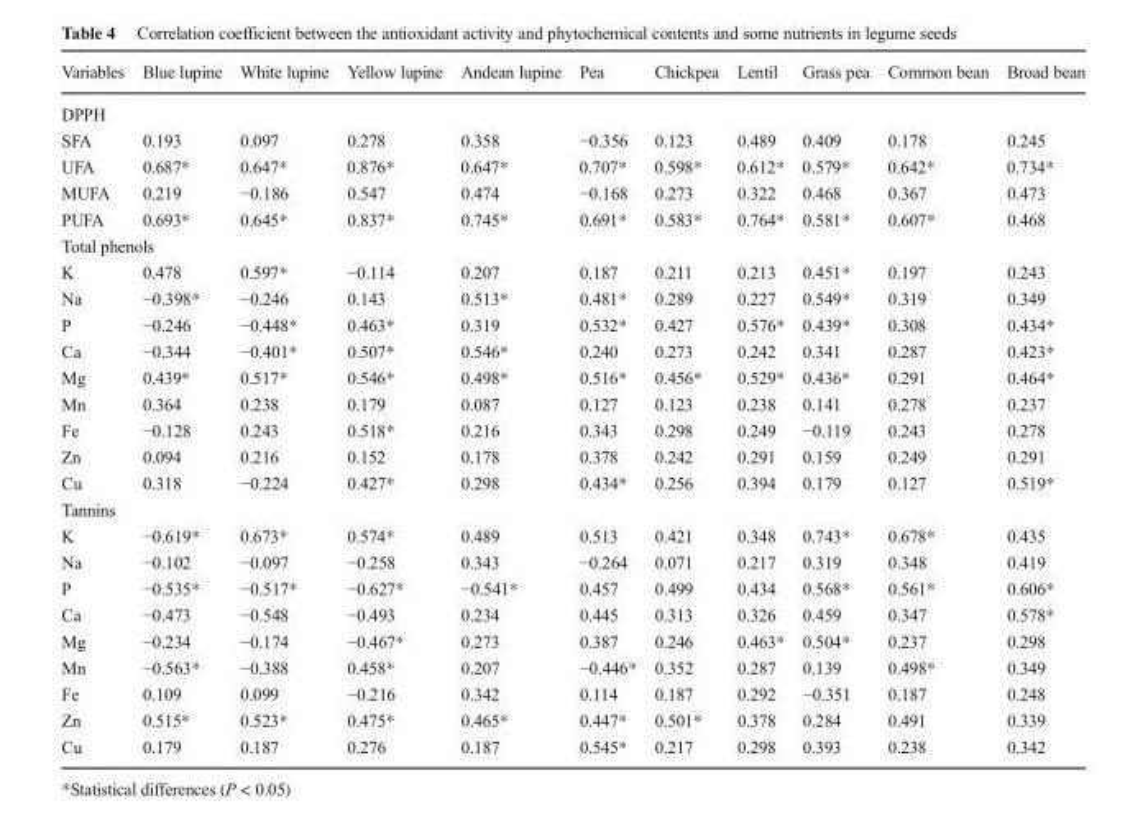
<table><thead><tr><td>Variables</td><td>Blue lupine</td><td>White lupine</td><td>Yellow lupine</td><td>Andean lupine</td><td>Pea</td><td>Chickpea</td><td>Lentil</td><td>Grass pea</td><td>Common bean</td><td>Broad bean</td></tr></thead><tbody><tr><td colspan="11">DPPH</td></tr><tr><td>SFA</td><td>0.193</td><td>0.097</td><td>0.278</td><td>0.358</td><td>−0.356</td><td>0.123</td><td>0.489</td><td>0.409</td><td>0.178</td><td>0.245</td></tr><tr><td>UFA</td><td>0.687*</td><td>0.647*</td><td>0.876*</td><td>0.647*</td><td>0.707*</td><td>0.598*</td><td>0.612*</td><td>0.579*</td><td>0.642*</td><td>0.734*</td></tr><tr><td>MUFA</td><td>0.219</td><td>−0.186</td><td>0.547</td><td>0.474</td><td>−0.168</td><td>0.273</td><td>0.322</td><td>0.468</td><td>0.367</td><td>0.473</td></tr><tr><td>PUFA</td><td>0.693*</td><td>0.645*</td><td>0.837*</td><td>0.745*</td><td>0.691*</td><td>0.583*</td><td>0.764*</td><td>0.581*</td><td>0.607*</td><td>0.468</td></tr><tr><td colspan="11">Total phenols</td></tr><tr><td>K</td><td>0.478</td><td>0.597*</td><td>−0.114</td><td>0.207</td><td>0.187</td><td>0.211</td><td>0.213</td><td>0.451*</td><td>0.197</td><td>0.243</td></tr><tr><td>Na</td><td>−0.398*</td><td>−0.246</td><td>0.143</td><td>0.513*</td><td>0.481*</td><td>0.289</td><td>0.227</td><td>0.549*</td><td>0.319</td><td>0.349</td></tr><tr><td>P</td><td>−0.246</td><td>−0.448*</td><td>0.463*</td><td>0.319</td><td>0.532*</td><td>0.427</td><td>0.576*</td><td>0.439*</td><td>0.308</td><td>0.434*</td></tr><tr><td>Ca</td><td>−0.344</td><td>−0.401*</td><td>0.507*</td><td>0.546*</td><td>0.240</td><td>0.273</td><td>0.242</td><td>0.341</td><td>0.287</td><td>0.423*</td></tr><tr><td>Mg</td><td>0.439*</td><td>0.517*</td><td>0.546*</td><td>0.498*</td><td>0.516*</td><td>0.456*</td><td>0.529*</td><td>0.436*</td><td>0.291</td><td>0.464*</td></tr><tr><td>Mn</td><td>0.364</td><td>0.238</td><td>0.179</td><td>0.087</td><td>0.127</td><td>0.123</td><td>0.238</td><td>0.141</td><td>0.278</td><td>0.237</td></tr><tr><td>Fe</td><td>−0.128</td><td>0.243</td><td>0.518*</td><td>0.216</td><td>0.343</td><td>0.298</td><td>0.249</td><td>−0.119</td><td>0.243</td><td>0.278</td></tr><tr><td>Zn</td><td>0.094</td><td>0.216</td><td>0.152</td><td>0.178</td><td>0.378</td><td>0.242</td><td>0.291</td><td>0.159</td><td>0.249</td><td>0.291</td></tr><tr><td>Cu</td><td>0.318</td><td>−0.224</td><td>0.427*</td><td>0.298</td><td>0.434*</td><td>0.256</td><td>0.394</td><td>0.179</td><td>0.127</td><td>0.519*</td></tr><tr><td colspan="11">Tannins</td></tr><tr><td>K</td><td>−0.619*</td><td>0.673*</td><td>0.574*</td><td>0.489</td><td>0.513</td><td>0.421</td><td>0.348</td><td>0.743*</td><td>0.678*</td><td>0.435</td></tr><tr><td>Na</td><td>−0.102</td><td>−0.097</td><td>−0.258</td><td>0.343</td><td>−0.264</td><td>0.071</td><td>0.217</td><td>0.319</td><td>0.348</td><td>0.419</td></tr><tr><td>P</td><td>−0.535*</td><td>−0.517*</td><td>−0.627*</td><td>−0.541*</td><td>0.457</td><td>0.499</td><td>0.434</td><td>0.568*</td><td>0.561*</td><td>0.606*</td></tr><tr><td>Ca</td><td>−0.473</td><td>−0.548</td><td>−0.493</td><td>0.234</td><td>0.445</td><td>0.313</td><td>0.326</td><td>0.459</td><td>0.347</td><td>0.578*</td></tr><tr><td>Mg</td><td>−0.234</td><td>−0.174</td><td>−0.467*</td><td>0.273</td><td>0.387</td><td>0.246</td><td>0.463*</td><td>0.504*</td><td>0.237</td><td>0.298</td></tr><tr><td>Mn</td><td>−0.563*</td><td>−0.388</td><td>0.458*</td><td>0.207</td><td>−0.446*</td><td>0.352</td><td>0.287</td><td>0.139</td><td>0.498*</td><td>0.349</td></tr><tr><td>Fe</td><td>0.109</td><td>0.099</td><td>−0.216</td><td>0.342</td><td>0.114</td><td>0.187</td><td>0.292</td><td>−0.351</td><td>0.187</td><td>0.248</td></tr><tr><td>Zn</td><td>0.515*</td><td>0.523*</td><td>0.475*</td><td>0.465*</td><td>0.447*</td><td>0.501*</td><td>0.378</td><td>0.284</td><td>0.491</td><td>0.339</td></tr><tr><td>Cu</td><td>0.179</td><td>0.187</td><td>0.276</td><td>0.187</td><td>0.545*</td><td>0.217</td><td>0.298</td><td>0.393</td><td>0.238</td><td>0.342</td></tr></tbody></table>